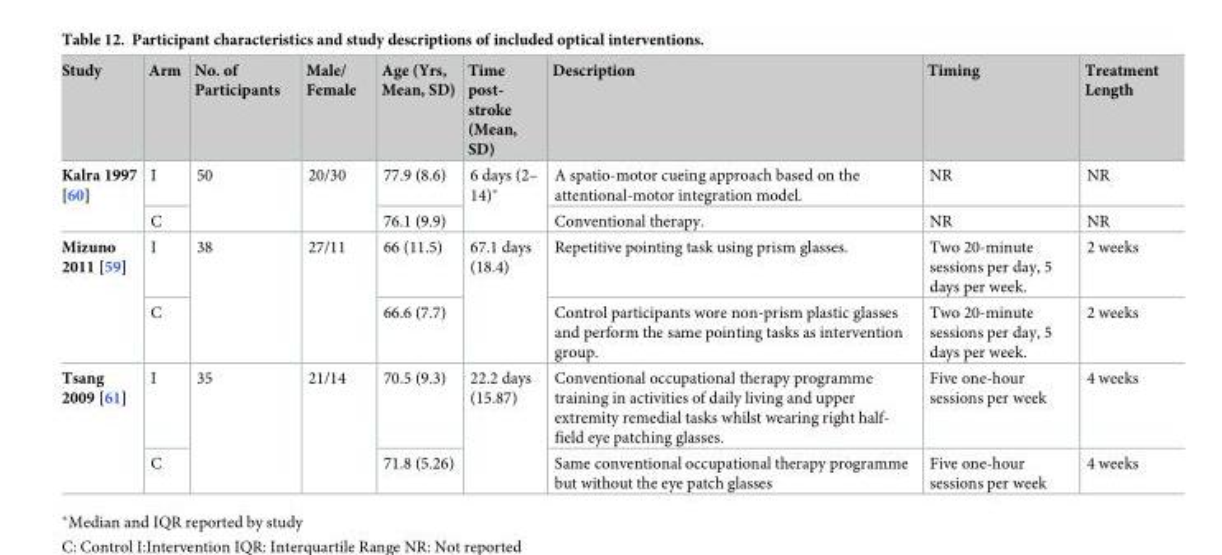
<table><thead><tr><td>Study</td><td>Arm</td><td>No. of Participants</td><td>Male/ Female</td><td>Age (Yrs, Mean, SD)</td><td>Time post- stroke (Mean, SD)</td><td>Description</td><td>Timing</td><td>Treatment Length</td></tr></thead><tbody><tr><td rowspan="2">Kalra 1997 [60]</td><td>I</td><td rowspan="2">50</td><td rowspan="2">20/30</td><td>77.9 (8.6)</td><td rowspan="2">6 days (2– 14)*</td><td>A spatio-motor cueing approach based on the attentional-motor integration model.</td><td>NR</td><td>NR</td></tr><tr><td>C</td><td>76.1 (9.9)</td><td>Conventional therapy.</td><td>NR</td><td>NR</td></tr><tr><td rowspan="2">Mizuno 2011 [59]</td><td>I</td><td rowspan="2">38</td><td rowspan="2">27/11</td><td>66 (11.5)</td><td rowspan="2">67.1 days (18.4)</td><td>Repetitive pointing task using prism glasses.</td><td>Two 20-minute sessions per day, 5 days per week.</td><td>2 weeks</td></tr><tr><td>C</td><td>66.6 (7.7)</td><td>Control participants wore non-prism plastic glasses and perform the same pointing tasks as intervention group.</td><td>Two 20-minute sessions per day, 5 days per week.</td><td>2 weeks</td></tr><tr><td rowspan="2">Tsang 2009 [61]</td><td>I</td><td rowspan="2">35</td><td rowspan="2">21/14</td><td>70.5 (9.3)</td><td rowspan="2">22.2 days (15.87)</td><td>Conventional occupational therapy programme training in activities of daily living and upper extremity remedial tasks whilst wearing right half- field eye patching glasses.</td><td>Five one-hour sessions per week</td><td>4 weeks</td></tr><tr><td>C</td><td>71.8 (5.26)</td><td>Same conventional occupational therapy programme but without the eye patch glasses</td><td>Five one-hour sessions per week</td><td>4 weeks</td></tr></tbody></table>